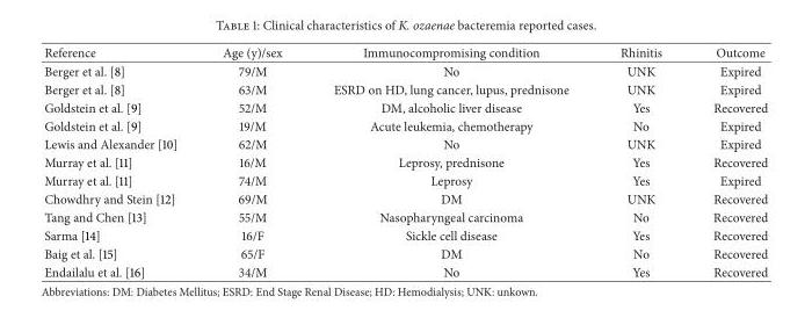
<table><thead><tr><td>Reference</td><td>Age (y)/sex</td><td>Immunocompromising condition</td><td>Rhinitis</td><td>Outcome</td></tr></thead><tbody><tr><td>Berger et al. [8]</td><td>79/M</td><td>No</td><td>UNK</td><td>Expired</td></tr><tr><td>Berger et al. [8]</td><td>63/M</td><td>ESRD on HD, lung cancer, lupus, prednisone</td><td>UNK</td><td>Expired</td></tr><tr><td>Goldstein et al. [9]</td><td>52/M</td><td>DM, alcoholic liver disease</td><td>Yes</td><td>Recovered</td></tr><tr><td>Goldstein et al. [9]</td><td>19/M</td><td>Acute leukemia, chemotherapy</td><td>No</td><td>Expired</td></tr><tr><td>Lewis and Alexander [10]</td><td>62/M</td><td>No</td><td>UNK</td><td>Expired</td></tr><tr><td>Murray et al. [11]</td><td>16/M</td><td>Leprosy, prednisone</td><td>Yes</td><td>Recovered</td></tr><tr><td>Murray et al. [11]</td><td>74/M</td><td>Leprosy</td><td>Yes</td><td>Expired</td></tr><tr><td>Chowdhry and Stein [12]</td><td>69/M</td><td>DM</td><td>UNK</td><td>Recovered</td></tr><tr><td>Tang and Chen [13]</td><td>55/M</td><td>Nasopharyngeal carcinoma</td><td>No</td><td>Recovered</td></tr><tr><td>Sarma [14]</td><td>16/F</td><td>Sickle cell disease</td><td>Yes</td><td>Recovered</td></tr><tr><td>Baig et al. [15]</td><td>65/F</td><td>DM</td><td>No</td><td>Recovered</td></tr><tr><td>Endailalu et al. [16]</td><td>34/M</td><td>No</td><td>Yes</td><td>Recovered</td></tr></tbody></table>